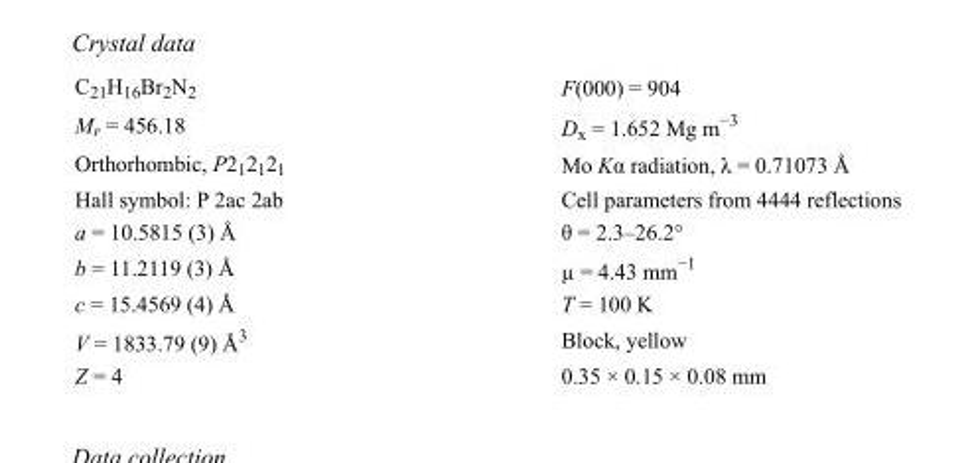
<table><tbody><tr><td>C<sub>21</sub>H<sub>16</sub>Br<sub>2</sub>N<sub>2</sub></td><td>F(000) = 904</td></tr><tr><td>M<sub>r</sub> = 456.18</td><td>D<sub>x</sub> = 1.652 Mg m<sup>−3</sup></td></tr><tr><td>Orthorhombic, P2<sub>1</sub>2<sub>1</sub>2<sub>1</sub></td><td>Mo Kα radiation, λ = 0.71073 Å</td></tr><tr><td>Hall symbol: P 2ac 2ab</td><td>Cell parameters from 4444 reflections</td></tr><tr><td>a = 10.5815 (3) Å</td><td>θ = 2.3–26.2°</td></tr><tr><td>b = 11.2119 (3) Å</td><td>µ = 4.43 mm<sup>−1</sup></td></tr><tr><td>c = 15.4569 (4) Å</td><td>T = 100 K</td></tr><tr><td>V = 1833.79 (9) Å<sup>3</sup></td><td>Block, yellow</td></tr><tr><td>Z = 4</td><td>0.35 × 0.15 × 0.08 mm</td></tr></tbody></table>